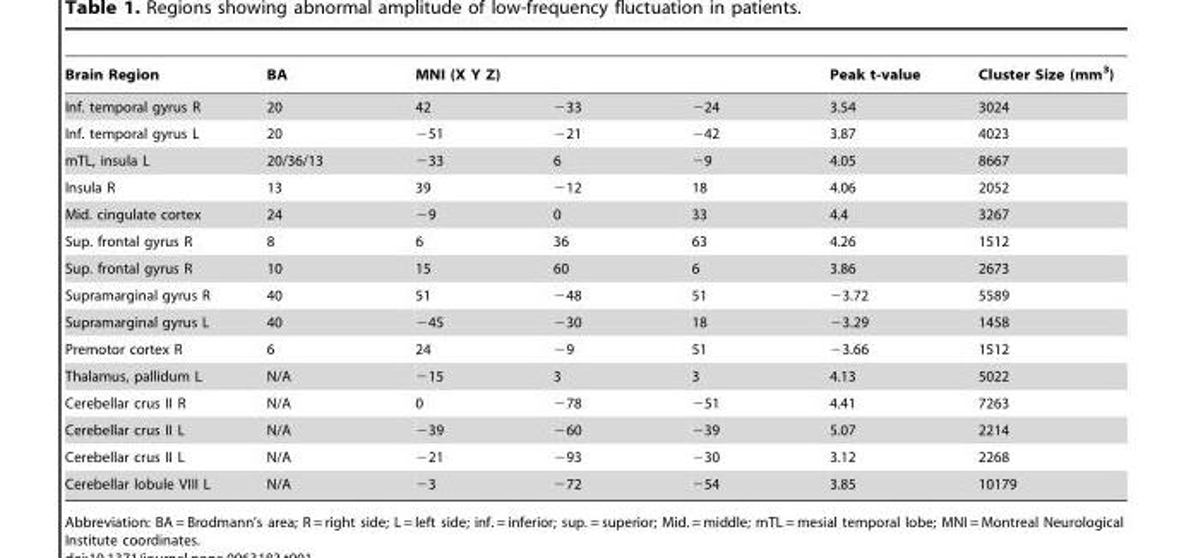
<table><thead><tr><td rowspan="2">Brain Region Inf. temporal gyrus R</td><td rowspan="2">BA 20</td><td colspan="3">MNI (X Y Z)</td><td rowspan="2">Peak t-value 3.54</td><td rowspan="2">Cluster Size (mm<sup>3</sup>) 3024</td></tr><tr><td>42</td><td>−33</td><td>−24</td></tr></thead><tbody><tr><td>Inf. temporal gyrus L</td><td>20</td><td>−51</td><td>−21</td><td>−42</td><td>3.87</td><td>4023</td></tr><tr><td>mTL, insula L</td><td>20/36/13</td><td>−33</td><td>6</td><td>−9</td><td>4.05</td><td>8667</td></tr><tr><td>Insula R</td><td>13</td><td>39</td><td>−12</td><td>18</td><td>4.06</td><td>2052</td></tr><tr><td>Mid. cingulate cortex</td><td>24</td><td>−9</td><td>0</td><td>33</td><td>4.4</td><td>3267</td></tr><tr><td>Sup. frontal gyrus R</td><td>8</td><td>6</td><td>36</td><td>63</td><td>4.26</td><td>1512</td></tr><tr><td>Sup. frontal gyrus R</td><td>10</td><td>15</td><td>60</td><td>6</td><td>3.86</td><td>2673</td></tr><tr><td>Supramarginal gyrus R</td><td>40</td><td>51</td><td>−48</td><td>51</td><td>−3.72</td><td>5589</td></tr><tr><td>Supramarginal gyrus L</td><td>40</td><td>−45</td><td>−30</td><td>18</td><td>−3.29</td><td>1458</td></tr><tr><td>Premotor cortex R</td><td>6</td><td>24</td><td>−9</td><td>51</td><td>−3.66</td><td>1512</td></tr><tr><td>Thalamus, pallidum L</td><td>N/A</td><td>−15</td><td>3</td><td>3</td><td>4.13</td><td>5022</td></tr><tr><td>Cerebellar crus II R</td><td>N/A</td><td>0</td><td>−78</td><td>−51</td><td>4.41</td><td>7263</td></tr><tr><td>Cerebellar crus II L</td><td>N/A</td><td>−39</td><td>−60</td><td>−39</td><td>5.07</td><td>2214</td></tr><tr><td>Cerebellar crus II L</td><td>N/A</td><td>−21</td><td>−93</td><td>−30</td><td>3.12</td><td>2268</td></tr><tr><td>Cerebellar lobule VIII L</td><td>N/A</td><td>−3</td><td>−72</td><td>−54</td><td>3.85</td><td>10179</td></tr></tbody></table>